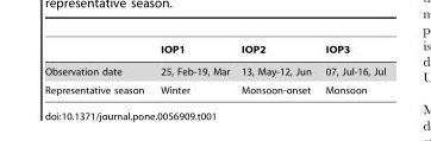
<table><thead><tr><td></td><td>IOP1</td><td>IOP2</td><td>IOP3</td></tr></thead><tbody><tr><td>Observation date</td><td>25, Feb-19, Mar</td><td>13, May-12, Jun</td><td>07, Jul-16, Jul</td></tr><tr><td>Representative season</td><td>Winter</td><td>Monsoon-onset</td><td>Monsoon</td></tr></tbody></table>